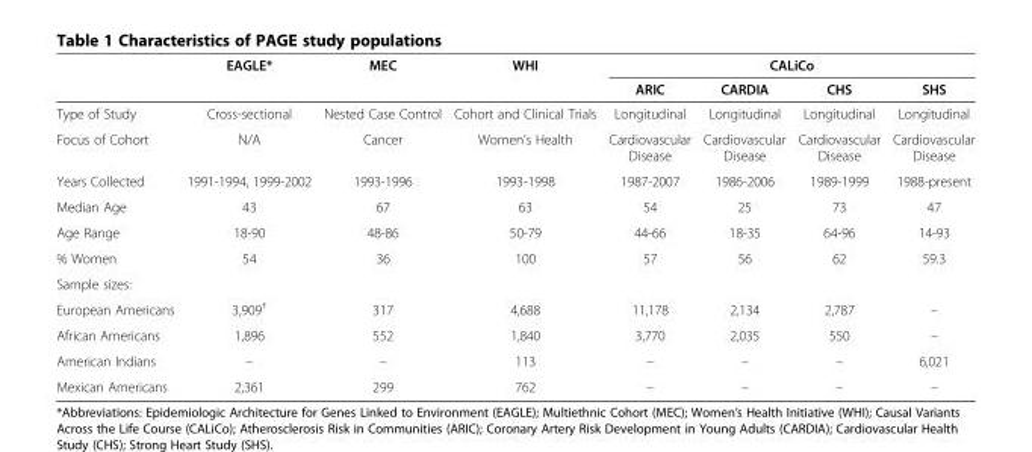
<table><thead><tr><td rowspan="2"></td><td rowspan="2">EAGLE*</td><td rowspan="2">MEC</td><td rowspan="2">WHI</td><td colspan="4">CALiCo</td></tr><tr><td>ARIC</td><td>CARDIA</td><td>CHS</td><td>SHS</td></tr></thead><tbody><tr><td>Type of Study</td><td>Cross-sectional</td><td>Nested Case Control</td><td>Cohort and Clinical Trials</td><td>Longitudinal</td><td>Longitudinal</td><td>Longitudinal</td><td>Longitudinal</td></tr><tr><td>Focus of Cohort</td><td>N/A</td><td>Cancer</td><td>Women’s Health</td><td>Cardiovascular Disease</td><td>Cardiovascular Disease</td><td>Cardiovascular Disease</td><td>Cardiovascular Disease</td></tr><tr><td>Years Collected</td><td>1991-1994, 1999-2002</td><td>1993-1996</td><td>1993-1998</td><td>1987-2007</td><td>1986-2006</td><td>1989-1999</td><td>1988-present</td></tr><tr><td>Median Age</td><td>43</td><td>67</td><td>63</td><td>54</td><td>25</td><td>73</td><td>47</td></tr><tr><td>Age Range</td><td>18-90</td><td>48-86</td><td>50-79</td><td>44-66</td><td>18-35</td><td>64-96</td><td>14-93</td></tr><tr><td>% Women</td><td>54</td><td>36</td><td>100</td><td>57</td><td>56</td><td>62</td><td>59.3</td></tr><tr><td colspan="8">Sample sizes:</td></tr><tr><td>European Americans</td><td>3,909<sup>†</sup></td><td>317</td><td>4,688</td><td>11,178</td><td>2,134</td><td>2,787</td><td>–</td></tr><tr><td>African Americans</td><td>1,896</td><td>552</td><td>1,840</td><td>3,770</td><td>2,035</td><td>550</td><td>–</td></tr><tr><td>American Indians</td><td>–</td><td>–</td><td>113</td><td>–</td><td>–</td><td>–</td><td>6,021</td></tr><tr><td>Mexican Americans</td><td>2,361</td><td>299</td><td>762</td><td>–</td><td>–</td><td>–</td><td>–</td></tr></tbody></table>